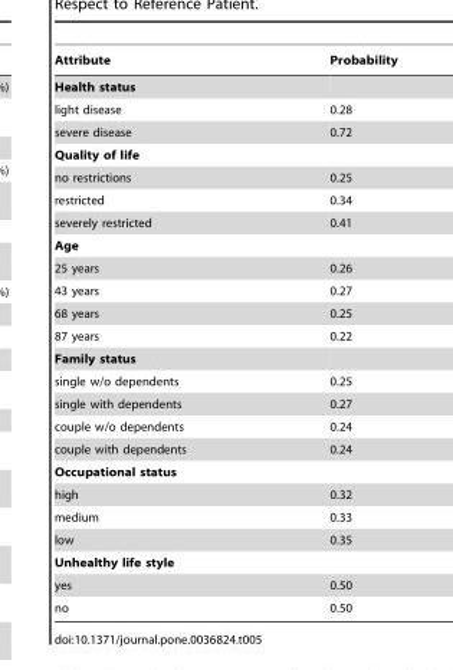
<table><thead><tr><td>Attribute</td><td>Probability</td></tr></thead><tbody><tr><td colspan="2">Health status</td></tr><tr><td>light disease</td><td>0.28</td></tr><tr><td>severe disease</td><td>0.72</td></tr><tr><td colspan="2">Quality of life</td></tr><tr><td>no restrictions</td><td>0.25</td></tr><tr><td>restricted</td><td>0.34</td></tr><tr><td>severely restricted</td><td>0.41</td></tr><tr><td colspan="2">Age</td></tr><tr><td>25 years</td><td>0.26</td></tr><tr><td>43 years</td><td>0.27</td></tr><tr><td>68 years</td><td>0.25</td></tr><tr><td>87 years</td><td>0.22</td></tr><tr><td colspan="2">Family status</td></tr><tr><td>single w/o dependents</td><td>0.25</td></tr><tr><td>single with dependents</td><td>0.27</td></tr><tr><td>couple w/o dependents</td><td>0.24</td></tr><tr><td>couple with dependents</td><td>0.24</td></tr><tr><td colspan="2">Occupational status</td></tr><tr><td>high</td><td>0.32</td></tr><tr><td>medium</td><td>0.33</td></tr><tr><td>low</td><td>0.35</td></tr><tr><td colspan="2">Unhealthy life style</td></tr><tr><td>yes</td><td>0.50</td></tr><tr><td>no</td><td>0.50</td></tr></tbody></table>